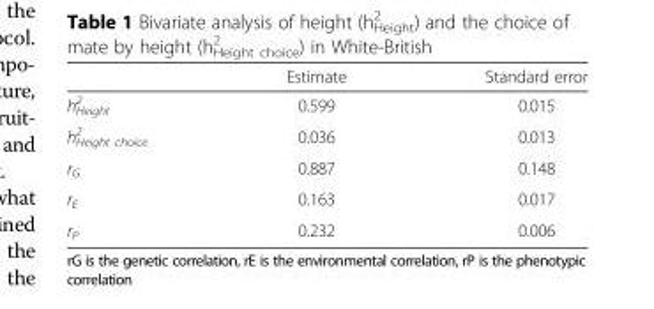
<table><thead><tr><td></td><td>Estimate</td><td>Standard error</td></tr></thead><tbody><tr><td>h<sup>2</sup> <sub>Height</sub></td><td>0.599</td><td>0.015</td></tr><tr><td>h<sup>2</sup> <sub>Height choice</sub></td><td>0.036</td><td>0.013</td></tr><tr><td>r<sub>G</sub></td><td>0.887</td><td>0.148</td></tr><tr><td>r<sub>E</sub></td><td>0.163</td><td>0.017</td></tr><tr><td>r<sub>P</sub></td><td>0.232</td><td>0.006</td></tr></tbody></table>